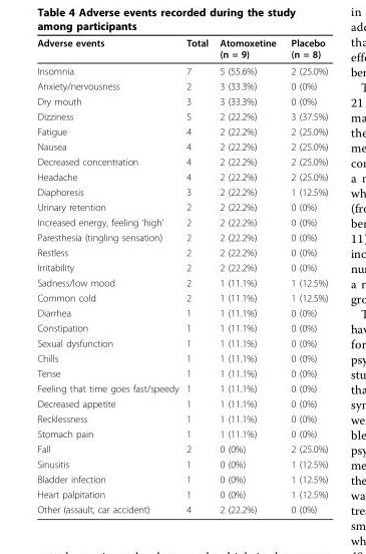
<table><thead><tr><td>Adverse events</td><td>Total</td><td>Atomoxetine (n = 9)</td><td>Placebo (n = 8)</td></tr></thead><tbody><tr><td>Insomnia</td><td>7</td><td>5 (55.6%)</td><td>2 (25.0%)</td></tr><tr><td>Anxiety/nervousness</td><td>2</td><td>3 (33.3%)</td><td>0 (0%)</td></tr><tr><td>Dry mouth</td><td>3</td><td>3 (33.3%)</td><td>0 (0%)</td></tr><tr><td>Dizziness</td><td>5</td><td>2 (22.2%)</td><td>3 (37.5%)</td></tr><tr><td>Fatigue</td><td>4</td><td>2 (22.2%)</td><td>2 (25.0%)</td></tr><tr><td>Nausea</td><td>4</td><td>2 (22.2%)</td><td>2 (25.0%)</td></tr><tr><td>Decreased concentration</td><td>4</td><td>2 (22.2%)</td><td>2 (25.0%)</td></tr><tr><td>Headache</td><td>4</td><td>2 (22.2%)</td><td>2 (25.0%)</td></tr><tr><td>Diaphoresis</td><td>3</td><td>2 (22.2%)</td><td>1 (12.5%)</td></tr><tr><td>Urinary retention</td><td>2</td><td>2 (22.2%)</td><td>0 (0%)</td></tr><tr><td>Increased energy, feeling ‘high’</td><td>2</td><td>2 (22.2%)</td><td>0 (0%)</td></tr><tr><td>Paresthesia (tingling sensation)</td><td>2</td><td>2 (22.2%)</td><td>0 (0%)</td></tr><tr><td>Restless</td><td>2</td><td>2 (22.2%)</td><td>0 (0%)</td></tr><tr><td>Irritability</td><td>2</td><td>2 (22.2%)</td><td>0 (0%)</td></tr><tr><td>Sadness/low mood</td><td>2</td><td>1 (11.1%)</td><td>1 (12.5%)</td></tr><tr><td>Common cold</td><td>2</td><td>1 (11.1%)</td><td>1 (12.5%)</td></tr><tr><td>Diarrhea</td><td>1</td><td>1 (11.1%)</td><td>0 (0%)</td></tr><tr><td>Constipation</td><td>1</td><td>1 (11.1%)</td><td>0 (0%)</td></tr><tr><td>Sexual dysfunction</td><td>1</td><td>1 (11.1%)</td><td>0 (0%)</td></tr><tr><td>Chills</td><td>1</td><td>1 (11.1%)</td><td>0 (0%)</td></tr><tr><td>Tense</td><td>1</td><td>1 (11.1%)</td><td>0 (0%)</td></tr><tr><td>Feeling that time goes fast/speedy</td><td>1</td><td>1 (11.1%)</td><td>0 (0%)</td></tr><tr><td>Decreased appetite</td><td>1</td><td>1 (11.1%)</td><td>0 (0%)</td></tr><tr><td>Recklessness</td><td>1</td><td>1 (11.1%)</td><td>0 (0%)</td></tr><tr><td>Stomach pain</td><td>1</td><td>1 (11.1%)</td><td>0 (0%)</td></tr><tr><td>Fall</td><td>2</td><td>0 (0%)</td><td>2 (25.0%)</td></tr><tr><td>Sinusitis</td><td>1</td><td>0 (0%)</td><td>1 (12.5%)</td></tr><tr><td>Bladder infection</td><td>1</td><td>0 (0%)</td><td>1 (12.5%)</td></tr><tr><td>Heart palpitation</td><td>1</td><td>0 (0%)</td><td>1 (12.5%)</td></tr><tr><td>Other (assault, car accident)</td><td>4</td><td>2 (22.2%)</td><td>0 (0%)</td></tr></tbody></table>